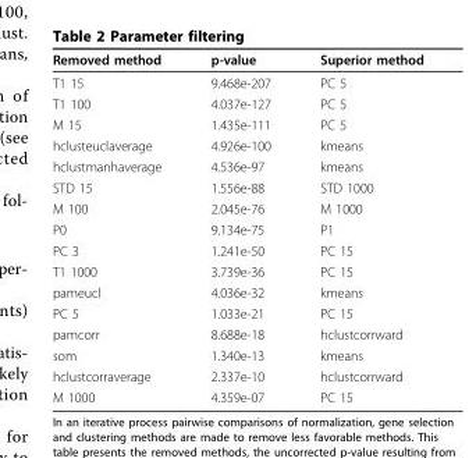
<table><thead><tr><td>Removed method</td><td>p-value</td><td>Superior method</td></tr></thead><tbody><tr><td>T1 15</td><td>9.468e-207</td><td>PC 5</td></tr><tr><td>T1 100</td><td>4.037e-127</td><td>PC 5</td></tr><tr><td>M 15</td><td>1.435e-111</td><td>PC 5</td></tr><tr><td>hclusteuclaverage</td><td>4.926e-100</td><td>kmeans</td></tr><tr><td>hclustmanhaverage</td><td>4.536e-97</td><td>kmeans</td></tr><tr><td>STD 15</td><td>1.556e-88</td><td>STD 1000</td></tr><tr><td>M 100</td><td>2.045e-76</td><td>M 1000</td></tr><tr><td>P0</td><td>9.134e-75</td><td>P1</td></tr><tr><td>PC 3</td><td>1.241e-50</td><td>PC 15</td></tr><tr><td>T1 1000</td><td>3.739e-36</td><td>PC 15</td></tr><tr><td>pameucl</td><td>4.036e-32</td><td>kmeans</td></tr><tr><td>PC 5</td><td>1.033e-21</td><td>PC 15</td></tr><tr><td>pamcorr</td><td>8.688e-18</td><td>hclustcorrward</td></tr><tr><td>som</td><td>1.340e-13</td><td>kmeans</td></tr><tr><td>hclustcorraverage</td><td>2.337e-10</td><td>hclustcorrward</td></tr><tr><td>M 1000</td><td>4.359e-07</td><td>PC 15</td></tr></tbody></table>